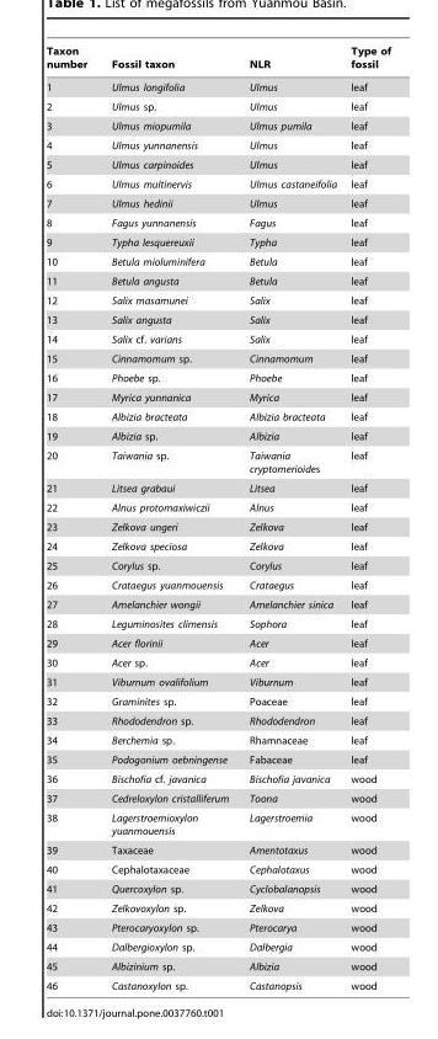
<table><thead><tr><td>Taxon number</td><td>Fossil taxon</td><td>NLR</td><td>Type of fossil</td></tr></thead><tbody><tr><td>1</td><td>Ulmus longifolia</td><td>Ulmus</td><td>leaf</td></tr><tr><td>2</td><td>Ulmus sp.</td><td>Ulmus</td><td>leaf</td></tr><tr><td>3</td><td>Ulmus miopumila</td><td>Ulmus pumila</td><td>leaf</td></tr><tr><td>4</td><td>Ulmus yunnanensis</td><td>Ulmus</td><td>leaf</td></tr><tr><td>5</td><td>Ulmus carpinoides</td><td>Ulmus</td><td>leaf</td></tr><tr><td>6</td><td>Ulmus multinervis</td><td>Ulmus castaneifolia</td><td>leaf</td></tr><tr><td>7</td><td>Ulmus hedinii</td><td>Ulmus</td><td>leaf</td></tr><tr><td>8</td><td>Fagus yunnanensis</td><td>Fagus</td><td>leaf</td></tr><tr><td>9</td><td>Typha lesquereuxii</td><td>Typha</td><td>leaf</td></tr><tr><td>10</td><td>Betula mioluminifera</td><td>Betula</td><td>leaf</td></tr><tr><td>11</td><td>Betula angusta</td><td>Betula</td><td>leaf</td></tr><tr><td>12</td><td>Salix masamunei</td><td>Salix</td><td>leaf</td></tr><tr><td>13</td><td>Salix angusta</td><td>Salix</td><td>leaf</td></tr><tr><td>14</td><td>Salix cf. varians</td><td>Salix</td><td>leaf</td></tr><tr><td>15</td><td>Cinnamomum sp.</td><td>Cinnamomum</td><td>leaf</td></tr><tr><td>16</td><td>Phoebe sp.</td><td>Phoebe</td><td>leaf</td></tr><tr><td>17</td><td>Myrica yunnanica</td><td>Myrica</td><td>leaf</td></tr><tr><td>18</td><td>Albizia bracteata</td><td>Albizia bracteata</td><td>leaf</td></tr><tr><td>19</td><td>Albizia sp.</td><td>Albizia</td><td>leaf</td></tr><tr><td>20</td><td>Taiwania sp.</td><td>Taiwania cryptomerioides</td><td>leaf</td></tr><tr><td>21</td><td>Litsea grabaui</td><td>Litsea</td><td>leaf</td></tr><tr><td>22</td><td>Alnus protomaxiwiczii</td><td>Alnus</td><td>leaf</td></tr><tr><td>23</td><td>Zelkova ungeri</td><td>Zelkova</td><td>leaf</td></tr><tr><td>24</td><td>Zelkova speciosa</td><td>Zelkova</td><td>leaf</td></tr><tr><td>25</td><td>Corylus sp.</td><td>Corylus</td><td>leaf</td></tr><tr><td>26</td><td>Crataegus yuanmouensis</td><td>Crataegus</td><td>leaf</td></tr><tr><td>27</td><td>Amelanchier wongii</td><td>Amelanchier sinica</td><td>leaf</td></tr><tr><td>28</td><td>Leguminosites climensis</td><td>Sophora</td><td>leaf</td></tr><tr><td>29</td><td>Acer florinii</td><td>Acer</td><td>leaf</td></tr><tr><td>30</td><td>Acer sp.</td><td>Acer</td><td>leaf</td></tr><tr><td>31</td><td>Viburnum ovalifolium</td><td>Viburnum</td><td>leaf</td></tr><tr><td>32</td><td>Graminites sp.</td><td>Poaceae</td><td>leaf</td></tr><tr><td>33</td><td>Rhododendron sp.</td><td>Rhododendron</td><td>leaf</td></tr><tr><td>34</td><td>Berchemia sp.</td><td>Rhamnaceae</td><td>leaf</td></tr><tr><td>35</td><td>Podogonium oebningense</td><td>Fabaceae</td><td>leaf</td></tr><tr><td>36</td><td>Bischofia cf. javanica</td><td>Bischofia javanica</td><td>wood</td></tr><tr><td>37</td><td>Cedreloxylon cristalliferum</td><td>Toona</td><td>wood</td></tr><tr><td>38</td><td>Lagerstroemioxylon yuanmouensis</td><td>Lagerstroemia</td><td>wood</td></tr><tr><td>39</td><td>Taxaceae</td><td>Amentotaxus</td><td>wood</td></tr><tr><td>40</td><td>Cephalotaxaceae</td><td>Cephalotaxus</td><td>wood</td></tr><tr><td>41</td><td>Quercoxylon sp.</td><td>Cyclobalanopsis</td><td>wood</td></tr><tr><td>42</td><td>Zelkovoxylon sp.</td><td>Zelkova</td><td>wood</td></tr><tr><td>43</td><td>Pterocaryoxylon sp.</td><td>Pterocarya</td><td>wood</td></tr><tr><td>44</td><td>Dalbergioxylon sp.</td><td>Dalbergia</td><td>wood</td></tr><tr><td>45</td><td>Albizinium sp.</td><td>Albizia</td><td>wood</td></tr><tr><td>46</td><td>Castanoxylon sp.</td><td>Castanopsis</td><td>wood</td></tr></tbody></table>